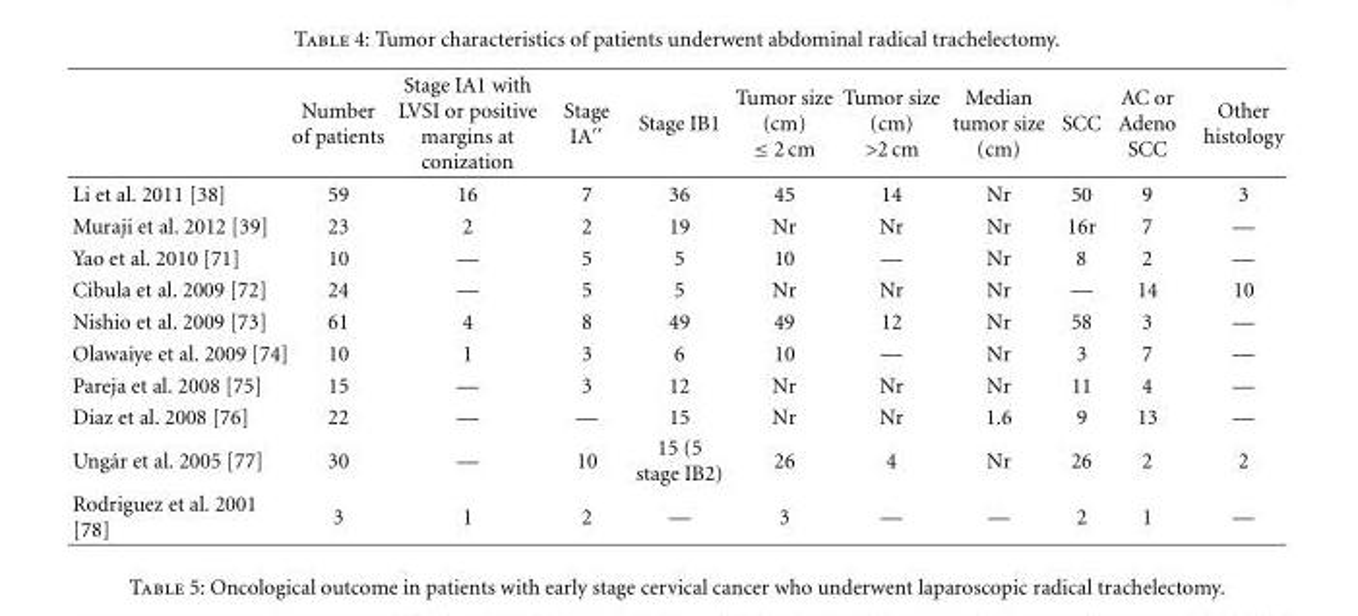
<table><thead><tr><td></td><td>Number of patients</td><td>Stage IA1 with LVSI or positive margins at conization</td><td>Stage IA′′</td><td>Stage IB1</td><td>Tumor size (cm) ≤ 2 cm</td><td>Tumor size (cm) &gt;2 cm</td><td>Median tumor size (cm)</td><td>SCC</td><td>AC or Adeno SCC</td><td>Other histology</td></tr></thead><tbody><tr><td>Li et al. 2011 [38]</td><td>59</td><td>16</td><td>7</td><td>36</td><td>45</td><td>14</td><td>Nr</td><td>50</td><td>9</td><td>3</td></tr><tr><td>Muraji et al. 2012 [39]</td><td>23</td><td>2</td><td>2</td><td>19</td><td>Nr</td><td>Nr</td><td>Nr</td><td>16r</td><td>7</td><td>—</td></tr><tr><td>Yao et al. 2010 [71]</td><td>10</td><td>—</td><td>5</td><td>5</td><td>10</td><td>—</td><td>Nr</td><td>8</td><td>2</td><td>—</td></tr><tr><td>Cibula et al. 2009 [72]</td><td>24</td><td>—</td><td>5</td><td>5</td><td>Nr</td><td>Nr</td><td>Nr</td><td>—</td><td>14</td><td>10</td></tr><tr><td>Nishio et al. 2009 [73]</td><td>61</td><td>4</td><td>8</td><td>49</td><td>49</td><td>12</td><td>Nr</td><td>58</td><td>3</td><td>—</td></tr><tr><td>Olawaiye et al. 2009 [74]</td><td>10</td><td>1</td><td>3</td><td>6</td><td>10</td><td>—</td><td>Nr</td><td>3</td><td>7</td><td>—</td></tr><tr><td>Pareja et al. 2008 [75]</td><td>15</td><td>—</td><td>3</td><td>12</td><td>Nr</td><td>Nr</td><td>Nr</td><td>11</td><td>4</td><td>—</td></tr><tr><td>Diaz et al. 2008 [76]</td><td>22</td><td>—</td><td>—</td><td>15</td><td>Nr</td><td>Nr</td><td>1.6</td><td>9</td><td>13</td><td>—</td></tr><tr><td>Ung´ar et al. 2005 [77]</td><td>30</td><td>—</td><td>10</td><td>15 (5 stage IB2)</td><td>26</td><td>4</td><td>Nr</td><td>26</td><td>2</td><td>2</td></tr><tr><td>Rodriguez et al. 2001 [78]</td><td>3</td><td>1</td><td>2</td><td>—</td><td>3</td><td>—</td><td>—</td><td>2</td><td>1</td><td>—</td></tr></tbody></table>